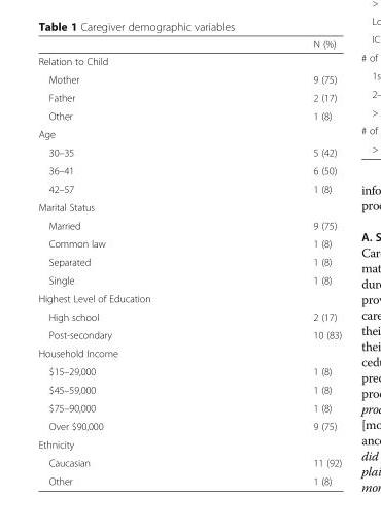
<table><thead><tr><td></td><td>N (%)</td></tr></thead><tbody><tr><td colspan="2">Relation to Child</td></tr><tr><td>Mother</td><td>9 (75)</td></tr><tr><td>Father</td><td>2 (17)</td></tr><tr><td>Other</td><td>1 (8)</td></tr><tr><td colspan="2">Age</td></tr><tr><td>30–35</td><td>5 (42)</td></tr><tr><td>36–41</td><td>6 (50)</td></tr><tr><td>42–57</td><td>1 (8)</td></tr><tr><td colspan="2">Marital Status</td></tr><tr><td>Married</td><td>9 (75)</td></tr><tr><td>Common law</td><td>1 (8)</td></tr><tr><td>Separated</td><td>1 (8)</td></tr><tr><td>Single</td><td>1 (8)</td></tr><tr><td colspan="2">Highest Level of Education</td></tr><tr><td>High school</td><td>2 (17)</td></tr><tr><td>Post-secondary</td><td>10 (83)</td></tr><tr><td colspan="2">Household Income</td></tr><tr><td>$15–29,000</td><td>1 (8)</td></tr><tr><td>$45–59,000</td><td>1 (8)</td></tr><tr><td>$75–90,000</td><td>1 (8)</td></tr><tr><td>Over $90,000</td><td>9 (75)</td></tr><tr><td colspan="2">Ethnicity</td></tr><tr><td>Caucasian</td><td>11 (92)</td></tr><tr><td>Other</td><td>1 (8)</td></tr></tbody></table>